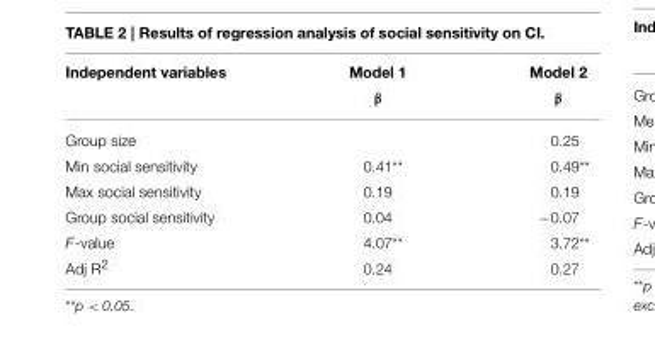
<table><thead><tr><td>Independent variables</td><td>Model 1 β</td><td>Model 2 β</td></tr></thead><tbody><tr><td>Group size</td><td></td><td>0.25</td></tr><tr><td>Min social sensitivity</td><td>0.41**</td><td>0.49**</td></tr><tr><td>Max social sensitivity</td><td>0.19</td><td>0.19</td></tr><tr><td>Group social sensitivity</td><td>0.04</td><td>−0.07</td></tr><tr><td>F-value</td><td>4.07**</td><td>3.72**</td></tr><tr><td>Adj R<sup>2</sup></td><td>0.24</td><td>0.27</td></tr></tbody></table>